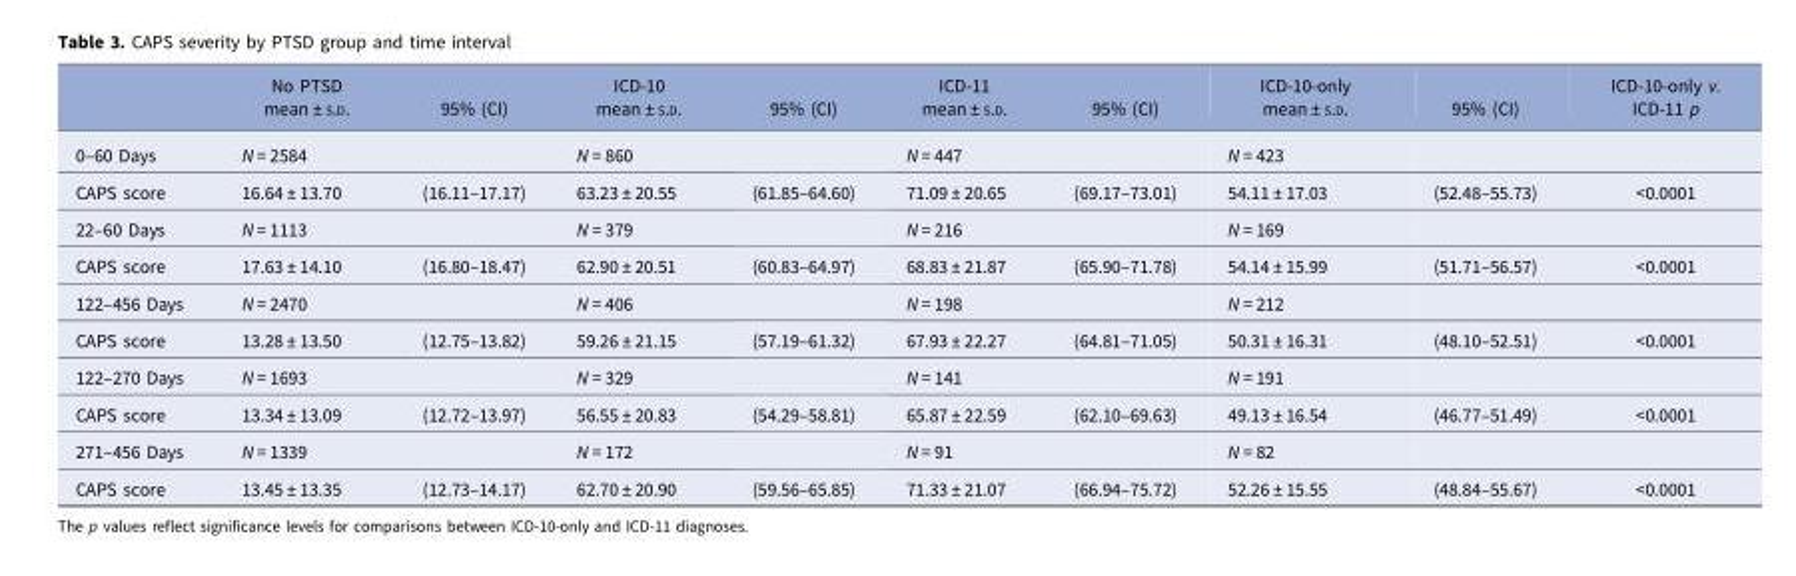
<table><thead><tr><td></td><td>No PTSD mean ± S.D.</td><td>95% (CI)</td><td>ICD-10 mean ± S.D.</td><td>95% (CI)</td><td>ICD-11 mean ± S.D.</td><td>95% (CI)</td><td>ICD-10-only mean ± S.D.</td><td>95% (CI)</td><td>ICD-10-only v. ICD-11 p</td></tr></thead><tbody><tr><td>0–60 Days</td><td>N = 2584</td><td></td><td>N = 860</td><td></td><td>N = 447</td><td></td><td>N = 423</td><td></td><td></td></tr><tr><td>CAPS score</td><td>16.64 ± 13.70</td><td>(16.11–17.17)</td><td>63.23 ± 20.55</td><td>(61.85–64.60)</td><td>71.09 ± 20.65</td><td>(69.17–73.01)</td><td>54.11 ± 17.03</td><td>(52.48–55.73)</td><td>&lt;0.0001</td></tr><tr><td>22–60 Days</td><td>N = 1113</td><td></td><td>N = 379</td><td></td><td>N = 216</td><td></td><td>N = 169</td><td></td><td></td></tr><tr><td>CAPS score</td><td>17.63 ± 14.10</td><td>(16.80–18.47)</td><td>62.90 ± 20.51</td><td>(60.83–64.97)</td><td>68.83 ± 21.87</td><td>(65.90–71.78)</td><td>54.14 ± 15.99</td><td>(51.71–56.57)</td><td>&lt;0.0001</td></tr><tr><td>122–456 Days</td><td>N = 2470</td><td></td><td>N = 406</td><td></td><td>N = 198</td><td></td><td>N = 212</td><td></td><td></td></tr><tr><td>CAPS score</td><td>13.28 ± 13.50</td><td>(12.75–13.82)</td><td>59.26 ± 21.15</td><td>(57.19–61.32)</td><td>67.93 ± 22.27</td><td>(64.81–71.05)</td><td>50.31 ± 16.31</td><td>(48.10–52.51)</td><td>&lt;0.0001</td></tr><tr><td>122–270 Days</td><td>N = 1693</td><td></td><td>N = 329</td><td></td><td>N = 141</td><td></td><td>N = 191</td><td></td><td></td></tr><tr><td>CAPS score</td><td>13.34 ± 13.09</td><td>(12.72–13.97)</td><td>56.55 ± 20.83</td><td>(54.29–58.81)</td><td>65.87 ± 22.59</td><td>(62.10–69.63)</td><td>49.13 ± 16.54</td><td>(46.77–51.49)</td><td>&lt;0.0001</td></tr><tr><td>271–456 Days</td><td>N = 1339</td><td></td><td>N = 172</td><td></td><td>N = 91</td><td></td><td>N = 82</td><td></td><td></td></tr><tr><td>CAPS score</td><td>13.45 ± 13.35</td><td>(12.73–14.17)</td><td>62.70 ± 20.90</td><td>(59.56–65.85)</td><td>71.33 ± 21.07</td><td>(66.94–75.72)</td><td>52.26 ± 15.55</td><td>(48.84–55.67)</td><td>&lt;0.0001</td></tr></tbody></table>